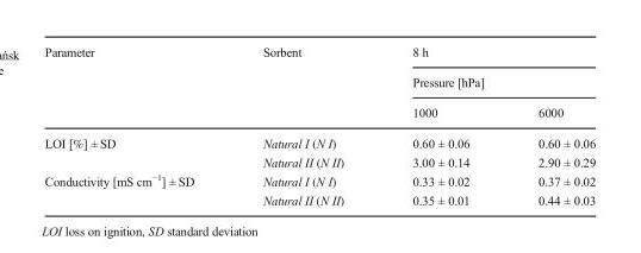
<table><thead><tr><td rowspan="3">Parameter</td><td rowspan="3">Sorbent</td><td rowspan="2" colspan="2">8 h Pressure [hPa]</td></tr><tr></tr><tr><td>1000</td><td>6000</td></tr></thead><tbody><tr><td rowspan="2">LOI [%] ± SD</td><td>Natural I (N I)</td><td>0.60 ± 0.06</td><td>0.60 ± 0.06</td></tr><tr><td>Natural II (N II)</td><td>3.00 ± 0.14</td><td>2.90 ± 0.29</td></tr><tr><td rowspan="2">Conductivity [mS cm<sup>−1</sup>] ± SD</td><td>Natural I (N I)</td><td>0.33 ± 0.02</td><td>0.37 ± 0.02</td></tr><tr><td>Natural II (N II)</td><td>0.35 ± 0.01</td><td>0.44 ± 0.03</td></tr></tbody></table>